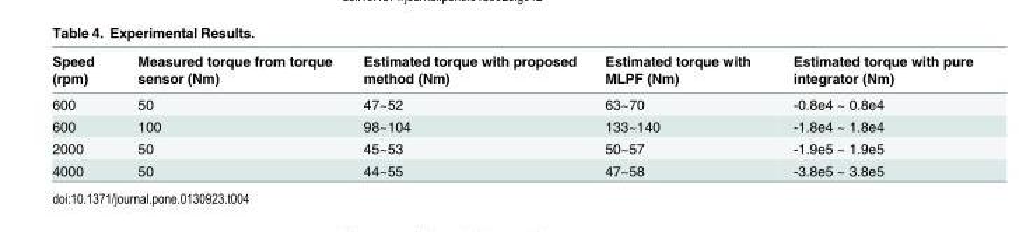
<table><thead><tr><td>Speed (rpm)</td><td>Measured torque from torque sensor (Nm)</td><td>Estimated torque with proposed method (Nm)</td><td>Estimated torque with MLPF (Nm)</td><td>Estimated torque with pure integrator (Nm)</td></tr></thead><tbody><tr><td>600</td><td>50</td><td>47~52</td><td>63~70</td><td>-0.8e4 ~ 0.8e4</td></tr><tr><td>600</td><td>100</td><td>98~104</td><td>133~140</td><td>-1.8e4 ~ 1.8e4</td></tr><tr><td>2000</td><td>50</td><td>45~53</td><td>50~57</td><td>-1.9e5 ~ 1.9e5</td></tr><tr><td>4000</td><td>50</td><td>44~55</td><td>47~58</td><td>-3.8e5 ~ 3.8e5</td></tr></tbody></table>